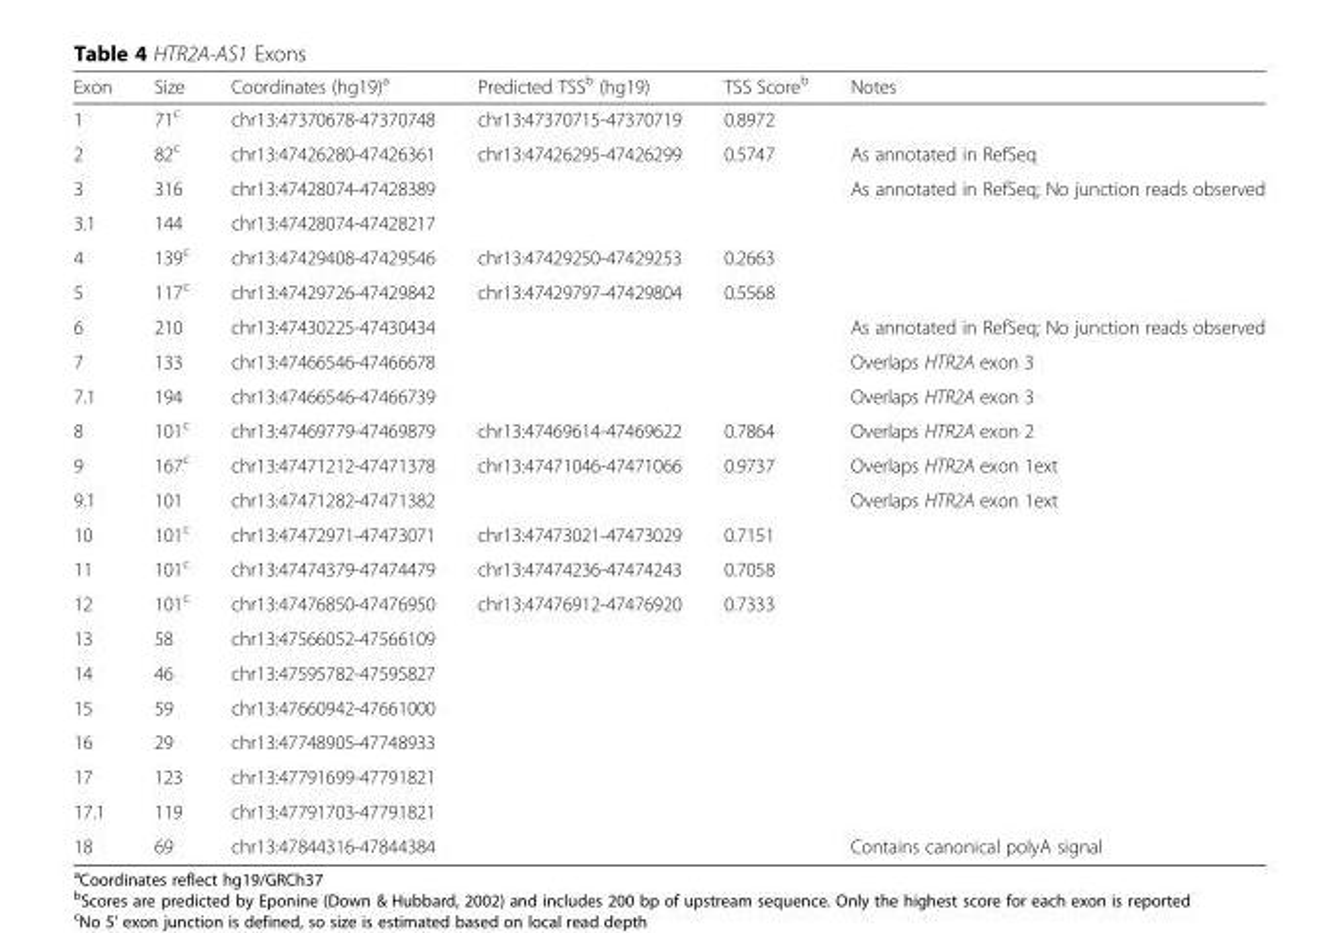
<table><thead><tr><td>Exon</td><td>Size</td><td>Coordinates (hg19)<sup>a</sup></td><td>Predicted TSS<sup>b</sup> (hg19)</td><td>TSS Score<sup>b</sup></td><td>Notes</td></tr></thead><tbody><tr><td>1</td><td>71<sup>c</sup></td><td>chr13:47370678-47370748</td><td>chr13:47370715-47370719</td><td>0.8972</td><td></td></tr><tr><td>2</td><td>82<sup>c</sup></td><td>chr13:47426280-47426361</td><td>chr13:47426295-47426299</td><td>0.5747</td><td>As annotated in RefSeq</td></tr><tr><td>3</td><td>316</td><td>chr13:47428074-47428389</td><td></td><td></td><td>As annotated in RefSeq; No junction reads observed</td></tr><tr><td>3.1</td><td>144</td><td>chr13:47428074-47428217</td><td></td><td></td><td></td></tr><tr><td>4</td><td>139<sup>c</sup></td><td>chr13:47429408-47429546</td><td>chr13:47429250-47429253</td><td>0.2663</td><td></td></tr><tr><td>5</td><td>117<sup>c</sup></td><td>chr13:47429726-47429842</td><td>chr13:47429797-47429804</td><td>0.5568</td><td></td></tr><tr><td>6</td><td>210</td><td>chr13:47430225-47430434</td><td></td><td></td><td>As annotated in RefSeq; No junction reads observed</td></tr><tr><td>7</td><td>133</td><td>chr13:47466546-47466678</td><td></td><td></td><td>Overlaps HTR2A exon 3</td></tr><tr><td>7.1</td><td>194</td><td>chr13:47466546-47466739</td><td></td><td></td><td>Overlaps HTR2A exon 3</td></tr><tr><td>8</td><td>101<sup>c</sup></td><td>chr13:47469779-47469879</td><td>chr13:47469614-47469622</td><td>0.7864</td><td>Overlaps HTR2A exon 2</td></tr><tr><td>9</td><td>167<sup>c</sup></td><td>chr13:47471212-47471378</td><td>chr13:47471046-47471066</td><td>0.9737</td><td>Overlaps HTR2A exon 1ext</td></tr><tr><td>9.1</td><td>101</td><td>chr13:47471282-47471382</td><td></td><td></td><td>Overlaps HTR2A exon 1ext</td></tr><tr><td>10</td><td>101<sup>c</sup></td><td>chr13:47472971-47473071</td><td>chr13:47473021-47473029</td><td>0.7151</td><td></td></tr><tr><td>11</td><td>101<sup>c</sup></td><td>chr13:47474379-47474479</td><td>chr13:47474236-47474243</td><td>0.7058</td><td></td></tr><tr><td>12</td><td>101<sup>c</sup></td><td>chr13:47476850-47476950</td><td>chr13:47476912-47476920</td><td>0.7333</td><td></td></tr><tr><td>13</td><td>58</td><td>chr13:47566052-47566109</td><td></td><td></td><td></td></tr><tr><td>14</td><td>46</td><td>chr13:47595782-47595827</td><td></td><td></td><td></td></tr><tr><td>15</td><td>59</td><td>chr13:47660942-47661000</td><td></td><td></td><td></td></tr><tr><td>16</td><td>29</td><td>chr13:47748905-47748933</td><td></td><td></td><td></td></tr><tr><td>17</td><td>123</td><td>chr13:47791699-47791821</td><td></td><td></td><td></td></tr><tr><td>17.1</td><td>119</td><td>chr13:47791703-47791821</td><td></td><td></td><td></td></tr><tr><td>18</td><td>69</td><td>chr13:47844316-47844384</td><td></td><td></td><td>Contains canonical polyA signal</td></tr></tbody></table>